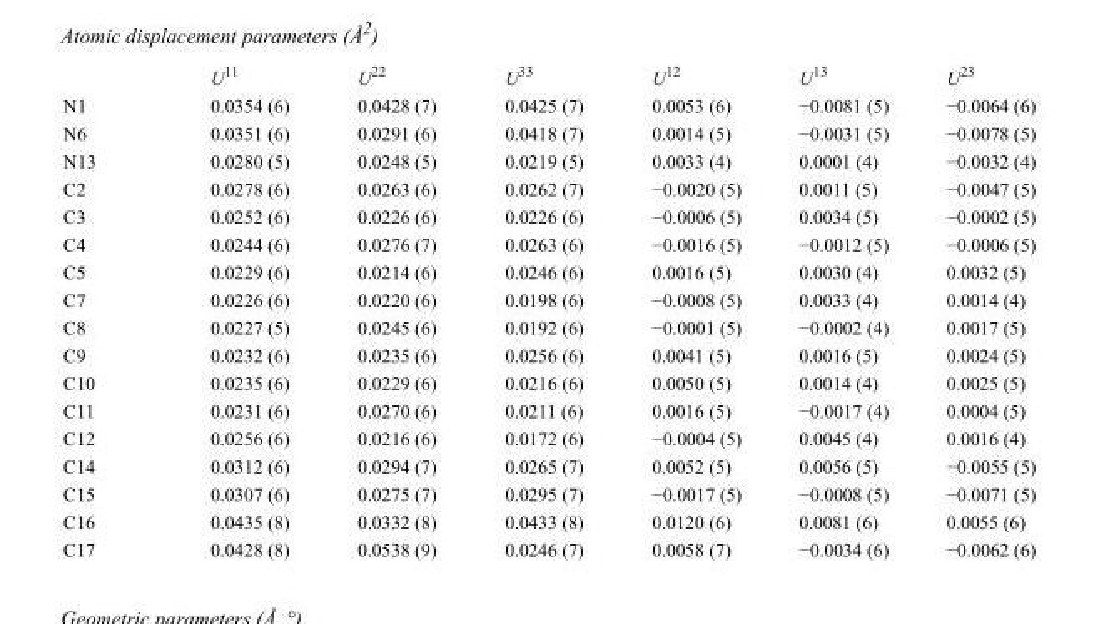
<table><thead><tr><td></td><td>U<sup>11</sup></td><td>U<sup>22</sup></td><td>U<sup>33</sup></td><td>U<sup>12</sup></td><td>U<sup>13</sup></td><td>U<sup>23</sup></td></tr></thead><tbody><tr><td>N1</td><td>0.0354 (6)</td><td>0.0428 (7)</td><td>0.0425 (7)</td><td>0.0053 (6)</td><td>−0.0081 (5)</td><td>−0.0064 (6)</td></tr><tr><td>N6</td><td>0.0351 (6)</td><td>0.0291 (6)</td><td>0.0418 (7)</td><td>0.0014 (5)</td><td>−0.0031 (5)</td><td>−0.0078 (5)</td></tr><tr><td>N13</td><td>0.0280 (5)</td><td>0.0248 (5)</td><td>0.0219 (5)</td><td>0.0033 (4)</td><td>0.0001 (4)</td><td>−0.0032 (4)</td></tr><tr><td>C2</td><td>0.0278 (6)</td><td>0.0263 (6)</td><td>0.0262 (7)</td><td>−0.0020 (5)</td><td>0.0011 (5)</td><td>−0.0047 (5)</td></tr><tr><td>C3</td><td>0.0252 (6)</td><td>0.0226 (6)</td><td>0.0226 (6)</td><td>−0.0006 (5)</td><td>0.0034 (5)</td><td>−0.0002 (5)</td></tr><tr><td>C4</td><td>0.0244 (6)</td><td>0.0276 (7)</td><td>0.0263 (6)</td><td>−0.0016 (5)</td><td>−0.0012 (5)</td><td>−0.0006 (5)</td></tr><tr><td>C5</td><td>0.0229 (6)</td><td>0.0214 (6)</td><td>0.0246 (6)</td><td>0.0016 (5)</td><td>0.0030 (4)</td><td>0.0032 (5)</td></tr><tr><td>C7</td><td>0.0226 (6)</td><td>0.0220 (6)</td><td>0.0198 (6)</td><td>−0.0008 (5)</td><td>0.0033 (4)</td><td>0.0014 (4)</td></tr><tr><td>C8</td><td>0.0227 (5)</td><td>0.0245 (6)</td><td>0.0192 (6)</td><td>−0.0001 (5)</td><td>−0.0002 (4)</td><td>0.0017 (5)</td></tr><tr><td>C9</td><td>0.0232 (6)</td><td>0.0235 (6)</td><td>0.0256 (6)</td><td>0.0041 (5)</td><td>0.0016 (5)</td><td>0.0024 (5)</td></tr><tr><td>C10</td><td>0.0235 (6)</td><td>0.0229 (6)</td><td>0.0216 (6)</td><td>0.0050 (5)</td><td>0.0014 (4)</td><td>0.0025 (5)</td></tr><tr><td>C11</td><td>0.0231 (6)</td><td>0.0270 (6)</td><td>0.0211 (6)</td><td>0.0016 (5)</td><td>−0.0017 (4)</td><td>0.0004 (5)</td></tr><tr><td>C12</td><td>0.0256 (6)</td><td>0.0216 (6)</td><td>0.0172 (6)</td><td>−0.0004 (5)</td><td>0.0045 (4)</td><td>0.0016 (4)</td></tr><tr><td>C14</td><td>0.0312 (6)</td><td>0.0294 (7)</td><td>0.0265 (7)</td><td>0.0052 (5)</td><td>0.0056 (5)</td><td>−0.0055 (5)</td></tr><tr><td>C15</td><td>0.0307 (6)</td><td>0.0275 (7)</td><td>0.0295 (7)</td><td>−0.0017 (5)</td><td>−0.0008 (5)</td><td>−0.0071 (5)</td></tr><tr><td>C16</td><td>0.0435 (8)</td><td>0.0332 (8)</td><td>0.0433 (8)</td><td>0.0120 (6)</td><td>0.0081 (6)</td><td>0.0055 (6)</td></tr><tr><td>C17</td><td>0.0428 (8)</td><td>0.0538 (9)</td><td>0.0246 (7)</td><td>0.0058 (7)</td><td>−0.0034 (6)</td><td>−0.0062 (6)</td></tr></tbody></table>